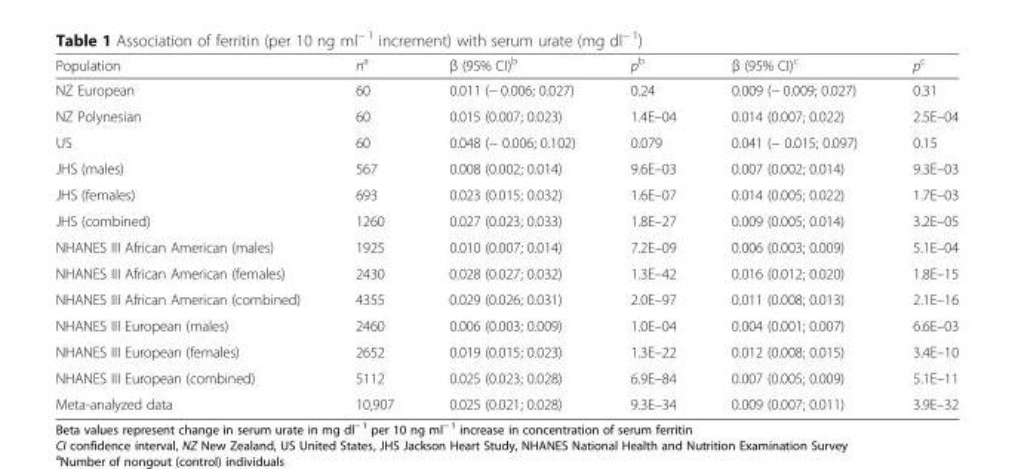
<table><thead><tr><td>Population</td><td>n<sup>a</sup></td><td>β (95% CI)<sup>b</sup></td><td>p<sup>b</sup></td><td>β (95% CI)<sup>c</sup></td><td>p<sup>c</sup></td></tr></thead><tbody><tr><td>NZ European</td><td>60</td><td>0.011 (− 0.006; 0.027)</td><td>0.24</td><td>0.009 (− 0.009; 0.027)</td><td>0.31</td></tr><tr><td>NZ Polynesian</td><td>60</td><td>0.015 (0.007; 0.023)</td><td>1.4E–04</td><td>0.014 (0.007; 0.022)</td><td>2.5E–04</td></tr><tr><td>US</td><td>60</td><td>0.048 (− 0.006; 0.102)</td><td>0.079</td><td>0.041 (− 0.015; 0.097)</td><td>0.15</td></tr><tr><td>JHS (males)</td><td>567</td><td>0.008 (0.002; 0.014)</td><td>9.6E–03</td><td>0.007 (0.002; 0.014)</td><td>9.3E–03</td></tr><tr><td>JHS (females)</td><td>693</td><td>0.023 (0.015; 0.032)</td><td>1.6E–07</td><td>0.014 (0.005; 0.022)</td><td>1.7E–03</td></tr><tr><td>JHS (combined)</td><td>1260</td><td>0.027 (0.023; 0.033)</td><td>1.8E–27</td><td>0.009 (0.005; 0.014)</td><td>3.2E–05</td></tr><tr><td>NHANES III African American (males)</td><td>1925</td><td>0.010 (0.007; 0.014)</td><td>7.2E–09</td><td>0.006 (0.003; 0.009)</td><td>5.1E–04</td></tr><tr><td>NHANES III African American (females)</td><td>2430</td><td>0.028 (0.027; 0.032)</td><td>1.3E–42</td><td>0.016 (0.012; 0.020)</td><td>1.8E–15</td></tr><tr><td>NHANES III African American (combined)</td><td>4355</td><td>0.029 (0.026; 0.031)</td><td>2.0E–97</td><td>0.011 (0.008; 0.013)</td><td>2.1E–16</td></tr><tr><td>NHANES III European (males)</td><td>2460</td><td>0.006 (0.003; 0.009)</td><td>1.0E–04</td><td>0.004 (0.001; 0.007)</td><td>6.6E–03</td></tr><tr><td>NHANES III European (females)</td><td>2652</td><td>0.019 (0.015; 0.023)</td><td>1.3E–22</td><td>0.012 (0.008; 0.015)</td><td>3.4E–10</td></tr><tr><td>NHANES III European (combined)</td><td>5112</td><td>0.025 (0.023; 0.028)</td><td>6.9E–84</td><td>0.007 (0.005; 0.009)</td><td>5.1E–11</td></tr><tr><td>Meta-analyzed data</td><td>10,907</td><td>0.025 (0.021; 0.028)</td><td>9.3E–34</td><td>0.009 (0.007; 0.011)</td><td>3.9E–32</td></tr></tbody></table>